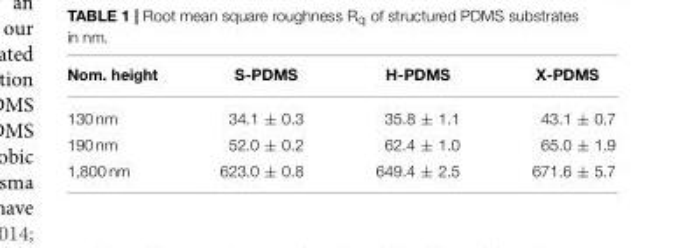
<table><thead><tr><td>Nom. height</td><td>S-PDMS</td><td>H-PDMS</td><td>X-PDMS</td></tr></thead><tbody><tr><td>130 nm</td><td>34.1 ± 0.3</td><td>35.8 ± 1.1</td><td>43.1 ± 0.7</td></tr><tr><td>190 nm</td><td>52.0 ± 0.2</td><td>62.4 ± 1.0</td><td>65.0 ± 1.9</td></tr><tr><td>1,800 nm</td><td>623.0 ± 0.8</td><td>649.4 ± 2.5</td><td>671.6 ± 5.7</td></tr></tbody></table>